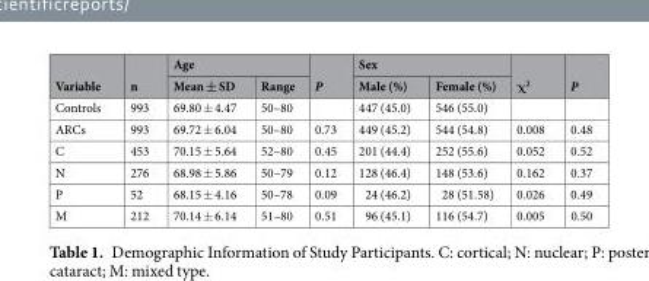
<table><thead><tr><td rowspan="2">Variable</td><td rowspan="2">n</td><td colspan="2">Age</td><td rowspan="2">P</td><td colspan="2">Sex</td><td rowspan="2">χ<sup>2</sup></td><td rowspan="2">P</td></tr><tr><td>Mean ± SD</td><td>Range</td><td>Male (%)</td><td>Female (%)</td></tr></thead><tbody><tr><td>Controls</td><td>993</td><td>69.80 ± 4.47</td><td>50–80</td><td></td><td>447 (45.0)</td><td>546 (55.0)</td><td></td><td></td></tr><tr><td>ARCs</td><td>993</td><td>69.72 ± 6.04</td><td>50–80</td><td>0.73</td><td>449 (45.2)</td><td>544 (54.8)</td><td>0.008</td><td>0.48</td></tr><tr><td>C</td><td>453</td><td>70.15 ± 5.64</td><td>52–80</td><td>0.45</td><td>201 (44.4)</td><td>252 (55.6)</td><td>0.052</td><td>0.52</td></tr><tr><td>N</td><td>276</td><td>68.98 ± 5.86</td><td>50–79</td><td>0.12</td><td>128 (46.4)</td><td>148 (53.6)</td><td>0.162</td><td>0.37</td></tr><tr><td>P</td><td>52</td><td>68.15 ± 4.16</td><td>50–78</td><td>0.09</td><td>24 (46.2)</td><td>28 (51.58)</td><td>0.026</td><td>0.49</td></tr><tr><td>M</td><td>212</td><td>70.14 ± 6.14</td><td>51–80</td><td>0.51</td><td>96 (45.1)</td><td>116 (54.7)</td><td>0.005</td><td>0.50</td></tr></tbody></table>